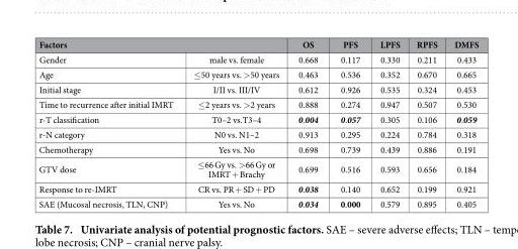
<table><thead><tr><td colspan="2">Factors</td><td rowspan="2">OS 0.668</td><td rowspan="2">PFS 0.117</td><td rowspan="2">LPFS 0.330</td><td rowspan="2">RPFS 0.211</td><td rowspan="2">DMFS 0.433</td></tr><tr><td>Gender</td><td>male vs. female</td></tr></thead><tbody><tr><td>Age</td><td>≤ 50 years vs. &gt; 50 years</td><td>0.463</td><td>0.536</td><td>0.352</td><td>0.670</td><td>0.665</td></tr><tr><td>Initial stage</td><td>I/II vs. III/IV</td><td>0.612</td><td>0.926</td><td>0.535</td><td>0.324</td><td>0.453</td></tr><tr><td>Time to recurrence after initial IMRT</td><td>≤ 2 years vs. &gt; 2 years</td><td>0.888</td><td>0.274</td><td>0.947</td><td>0.507</td><td>0.530</td></tr><tr><td>r-T classification</td><td>T0–2 vs.T3–4</td><td>0.004</td><td>0.057</td><td>0.305</td><td>0.106</td><td>0.059</td></tr><tr><td>r-N category</td><td>N0 vs. N1–2</td><td>0.913</td><td>0.295</td><td>0.224</td><td>0.784</td><td>0.318</td></tr><tr><td>Chemotherapy</td><td>Yes vs. No</td><td>0.698</td><td>0.739</td><td>0.439</td><td>0.886</td><td>0.191</td></tr><tr><td>GTV dose</td><td>≤ 66 Gy vs. &gt; 66 Gy or IMRT + Brachy</td><td>0.699</td><td>0.516</td><td>0.593</td><td>0.656</td><td>0.184</td></tr><tr><td>Response to re-IMRT</td><td>CR vs. PR + SD + PD</td><td>0.038</td><td>0.140</td><td>0.652</td><td>0.199</td><td>0.921</td></tr><tr><td>SAE (Mucosal necrosis, TLN, CNP)</td><td>Yes vs. No</td><td>0.034</td><td>0.000</td><td>0.579</td><td>0.895</td><td>0.405</td></tr></tbody></table>